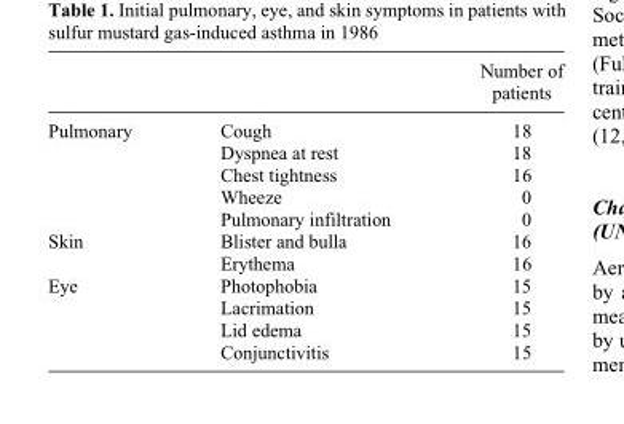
<table><thead><tr><td></td><td></td><td>Number of patients</td></tr></thead><tbody><tr><td rowspan="5">Pulmonary</td><td>Cough</td><td>18</td></tr><tr><td>Dyspnea at rest</td><td>18</td></tr><tr><td>Chest tightness</td><td>16</td></tr><tr><td>Wheeze</td><td>0</td></tr><tr><td>Pulmonary infiltration</td><td>0</td></tr><tr><td rowspan="2">Skin</td><td>Blister and bulla</td><td>16</td></tr><tr><td>Erythema</td><td>16</td></tr><tr><td rowspan="4">Eye</td><td>Photophobia</td><td>15</td></tr><tr><td>Lacrimation</td><td>15</td></tr><tr><td>Lid edema</td><td>15</td></tr><tr><td>Conjunctivitis</td><td>15</td></tr></tbody></table>